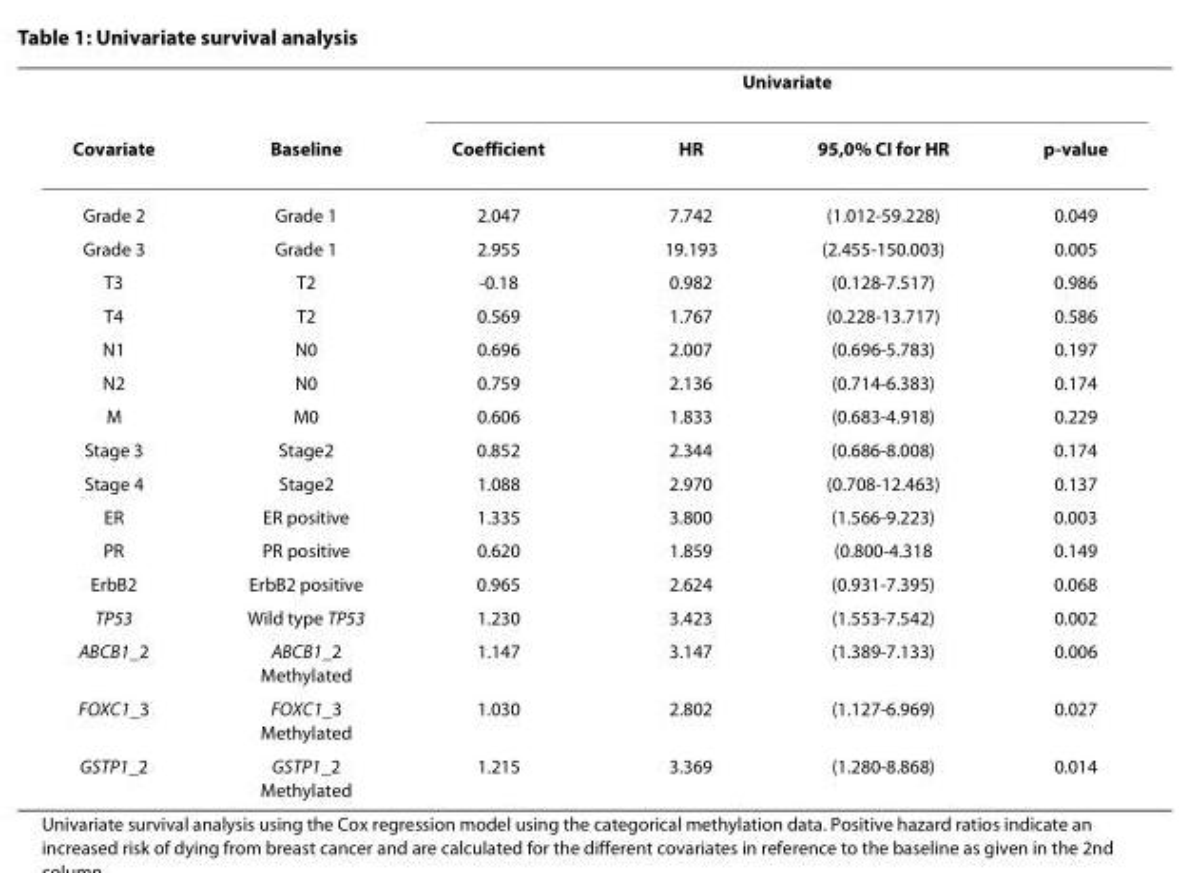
<table><thead><tr><td rowspan="2">Covariate</td><td rowspan="2">Baseline</td><td colspan="4">Univariate</td></tr><tr><td>Coefficient</td><td>HR</td><td>95,0% CI for HR</td><td>p-value</td></tr></thead><tbody><tr><td>Grade 2</td><td>Grade 1</td><td>2.047</td><td>7.742</td><td>(1.012-59.228)</td><td>0.049</td></tr><tr><td>Grade 3</td><td>Grade 1</td><td>2.955</td><td>19.193</td><td>(2.455-150.003)</td><td>0.005</td></tr><tr><td>T3</td><td>T2</td><td>-0.18</td><td>0.982</td><td>(0.128-7.517)</td><td>0.986</td></tr><tr><td>T4</td><td>T2</td><td>0.569</td><td>1.767</td><td>(0.228-13.717)</td><td>0.586</td></tr><tr><td>N1</td><td>N0</td><td>0.696</td><td>2.007</td><td>(0.696-5.783)</td><td>0.197</td></tr><tr><td>N2</td><td>N0</td><td>0.759</td><td>2.136</td><td>(0.714-6.383)</td><td>0.174</td></tr><tr><td>M</td><td>M0</td><td>0.606</td><td>1.833</td><td>(0.683-4.918)</td><td>0.229</td></tr><tr><td>Stage 3</td><td>Stage2</td><td>0.852</td><td>2.344</td><td>(0.686-8.008)</td><td>0.174</td></tr><tr><td>Stage 4</td><td>Stage2</td><td>1.088</td><td>2.970</td><td>(0.708-12.463)</td><td>0.137</td></tr><tr><td>ER</td><td>ER positive</td><td>1.335</td><td>3.800</td><td>(1.566-9.223)</td><td>0.003</td></tr><tr><td>PR</td><td>PR positive</td><td>0.620</td><td>1.859</td><td>(0.800-4.318</td><td>0.149</td></tr><tr><td>ErbB2</td><td>ErbB2 positive</td><td>0.965</td><td>2.624</td><td>(0.931-7.395)</td><td>0.068</td></tr><tr><td>TP53</td><td>Wild type TP53</td><td>1.230</td><td>3.423</td><td>(1.553-7.542)</td><td>0.002</td></tr><tr><td>ABCB1_2</td><td>ABCB1_2 Methylated</td><td>1.147</td><td>3.147</td><td>(1.389-7.133)</td><td>0.006</td></tr><tr><td>FOXC1_3</td><td>FOXC1_3 Methylated</td><td>1.030</td><td>2.802</td><td>(1.127-6.969)</td><td>0.027</td></tr><tr><td>GSTP1_2</td><td>GSTP1_2 Methylated</td><td>1.215</td><td>3.369</td><td>(1.280-8.868)</td><td>0.014</td></tr></tbody></table>